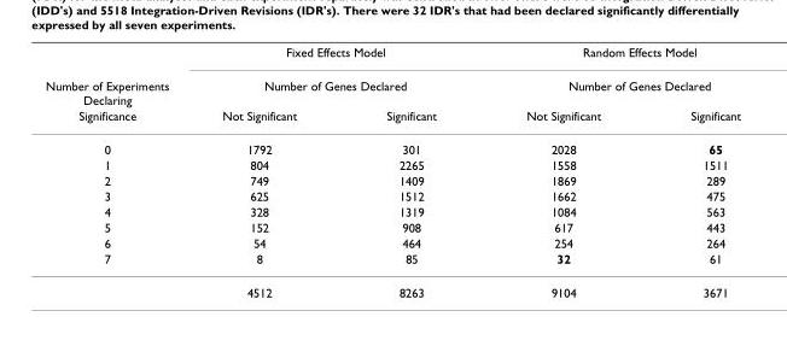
<table><thead><tr><td rowspan="3">Number of Experiments Declaring Significance</td><td rowspan="2" colspan="2">Fixed Effects Model Number of Genes Declared</td><td rowspan="2" colspan="2">Random Effects Model Number of Genes Declared</td></tr><tr></tr><tr><td>Not Significant</td><td>Significant</td><td>Not Significant</td><td>Significant</td></tr></thead><tbody><tr><td>0</td><td>1792</td><td>301</td><td>2028</td><td>65</td></tr><tr><td>1</td><td>804</td><td>2265</td><td>1558</td><td>1511</td></tr><tr><td>2</td><td>749</td><td>1409</td><td>1869</td><td>289</td></tr><tr><td>3</td><td>625</td><td>1512</td><td>1662</td><td>475</td></tr><tr><td>4</td><td>328</td><td>1319</td><td>1084</td><td>563</td></tr><tr><td>5</td><td>152</td><td>908</td><td>617</td><td>443</td></tr><tr><td>6</td><td>54</td><td>464</td><td>254</td><td>264</td></tr><tr><td rowspan="2">7</td><td>8</td><td>85</td><td>32</td><td>61</td></tr><tr><td>4512</td><td>8263</td><td>9104</td><td>3671</td></tr></tbody></table>